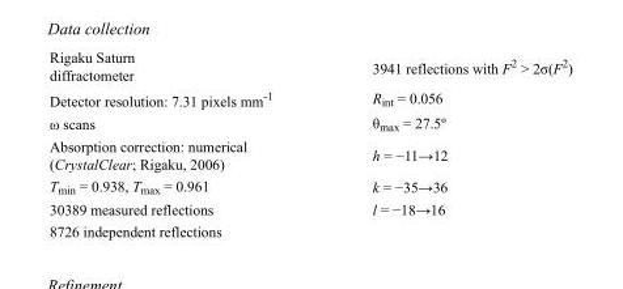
<table><tbody><tr><td>Rigaku Saturn diffractometer</td><td>3941 reflections with F<sup>2</sup> &gt; 2σ(F<sup>2</sup>)</td></tr><tr><td>Detector resolution: 7.31 pixels mm<sup>-1</sup></td><td>R<sub>int</sub> = 0.056</td></tr><tr><td>ω scans</td><td>θmax = 27.5º</td></tr><tr><td>Absorption correction: numerical (CrystalClear; Rigaku, 2006)</td><td>h = −11→12</td></tr><tr><td>T<sub>min</sub> = 0.938, T<sub>max</sub> = 0.961</td><td>k = −35→36</td></tr><tr><td>30389 measured reflections</td><td>l = −18→16</td></tr><tr><td>8726 independent reflections</td><td></td></tr></tbody></table>